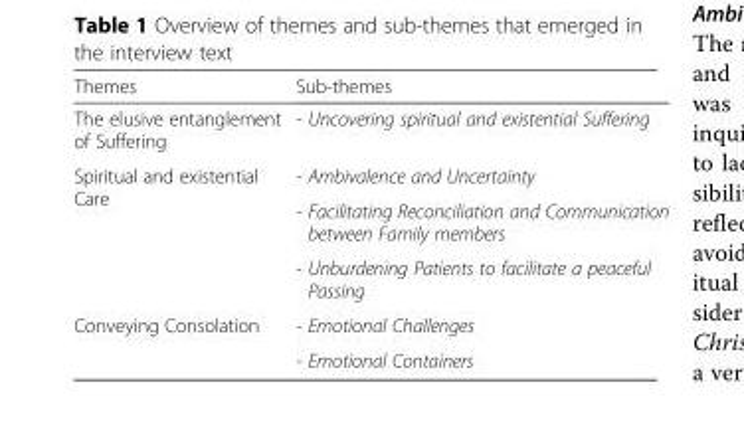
<table><thead><tr><td>Themes</td><td>Sub-themes</td></tr></thead><tbody><tr><td>The elusive entanglement of Suffering</td><td>- Uncovering spiritual and existential Suffering</td></tr><tr><td rowspan="3">Spiritual and existential Care</td><td>- Ambivalence and Uncertainty</td></tr><tr><td>- Facilitating Reconciliation and Communication between Family members</td></tr><tr><td>- Unburdening Patients to facilitate a peaceful Passing</td></tr><tr><td rowspan="2">Conveying Consolation</td><td>- Emotional Challenges</td></tr><tr><td>- Emotional Containers</td></tr></tbody></table>